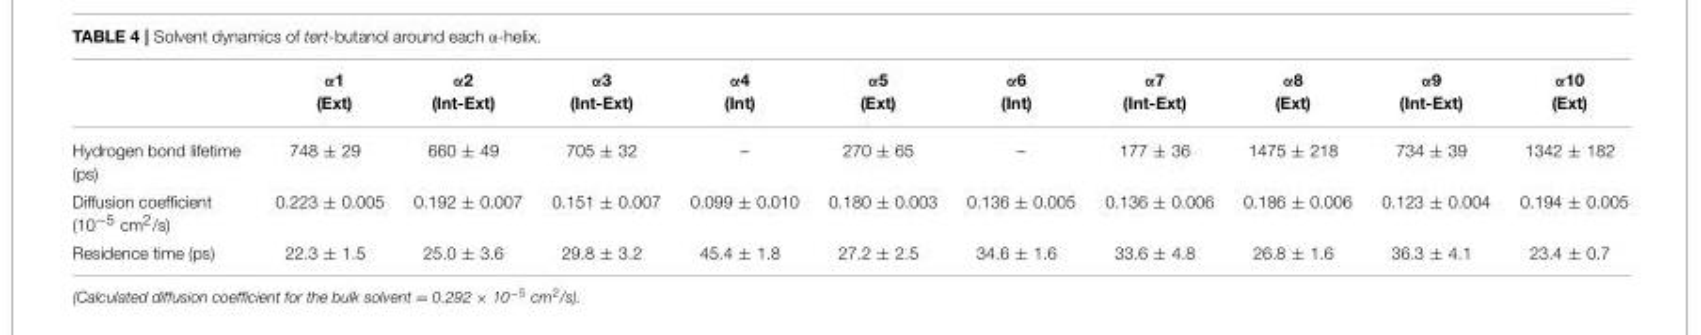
<table><thead><tr><td></td><td>α1 (Ext)</td><td>α2 (Int-Ext)</td><td>α3 (Int-Ext)</td><td>α4 (Int)</td><td>α5 (Ext)</td><td>α6 (Int)</td><td>α7 (Int-Ext)</td><td>α8 (Ext)</td><td>α9 (Int-Ext)</td><td>α10 (Ext)</td></tr></thead><tbody><tr><td>Hydrogen bond lifetime (ps)</td><td>748 ± 29</td><td>660 ± 49</td><td>705 ± 32</td><td>–</td><td>270 ± 65</td><td>–</td><td>177 ± 36</td><td>1475 ± 218</td><td>734 ± 39</td><td>1342 ± 182</td></tr><tr><td>Diffusion coefficient (10<sup>−5</sup> cm<sup>2</sup>/s)</td><td>0.223 ± 0.005</td><td>0.192 ± 0.007</td><td>0.151 ± 0.007</td><td>0.099 ± 0.010</td><td>0.180 ± 0.003</td><td>0.136 ± 0.005</td><td>0.136 ± 0.006</td><td>0.186 ± 0.006</td><td>0.123 ± 0.004</td><td>0.194 ± 0.005</td></tr><tr><td>Residence time (ps)</td><td>22.3 ± 1.5</td><td>25.0 ± 3.6</td><td>29.8 ± 3.2</td><td>45.4 ± 1.8</td><td>27.2 ± 2.5</td><td>34.6 ± 1.6</td><td>33.6 ± 4.8</td><td>26.8 ± 1.6</td><td>36.3 ± 4.1</td><td>23.4 ± 0.7</td></tr></tbody></table>